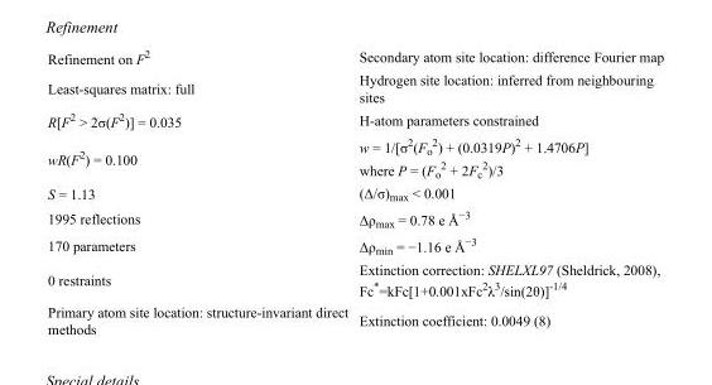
<table><tbody><tr><td>Refinement on F<sup>2</sup></td><td>Secondary atom site location: difference Fourier map</td></tr><tr><td>Least-squares matrix: full</td><td>Hydrogen site location: inferred from neighbouring sites</td></tr><tr><td>R[F<sup>2</sup> &gt; 2σ(F<sup>2</sup>)] = 0.035</td><td>H-atom parameters constrained</td></tr><tr><td>wR(F<sup>2</sup>) = 0.100</td><td>w = 1/[σ<sup>2</sup>(F<sub>o</sub> <sup>2</sup>) + (0.0319P)<sup>2</sup> + 1.4706P] where P = (F<sub>o</sub> <sup>2</sup> + 2F<sub>c</sub> <sup>2</sup>)/3</td></tr><tr><td>S = 1.13</td><td>(Δ/σ)<sub>max</sub> &lt; 0.001</td></tr><tr><td>1995 reflections</td><td>Δρ<sub>max</sub> = 0.78 e Å<sup>−3</sup></td></tr><tr><td>170 parameters</td><td>Δρ<sub>min</sub> = −1.16 e Å<sup>−3</sup></td></tr><tr><td>0 restraints</td><td>Extinction correction: SHELXL97 (Sheldrick, 2008), Fc*=kFc[1+0.001xFc<sup>2</sup>λ<sup>3</sup>/sin(2θ)]<sup>-1/4</sup></td></tr><tr><td>Primary atom site location: structure-invariant direct methods</td><td>Extinction coefficient: 0.0049 (8)</td></tr></tbody></table>